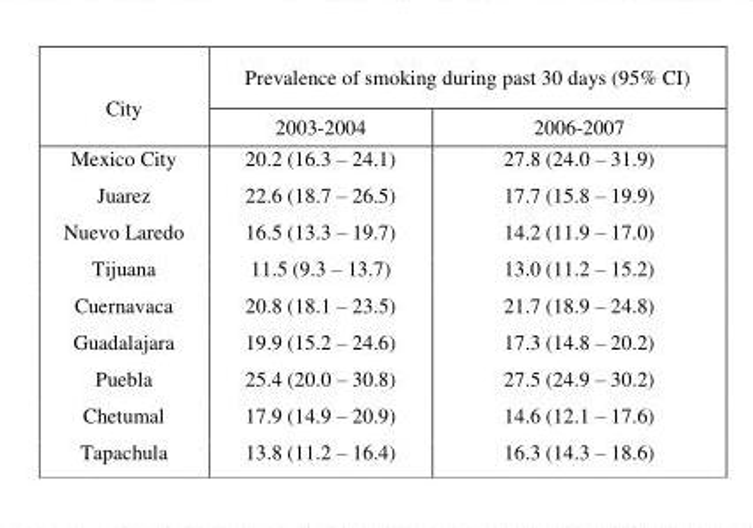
<table><thead><tr><td rowspan="2">City</td><td colspan="2">Prevalence of smoking during past 30 days (95% CI)</td></tr><tr><td>2003-2004</td><td>2006-2007</td></tr></thead><tbody><tr><td>Mexico City</td><td>20.2 (16.3 – 24.1)</td><td>27.8 (24.0 – 31.9)</td></tr><tr><td>Juarez</td><td>22.6 (18.7 – 26.5)</td><td>17.7 (15.8 – 19.9)</td></tr><tr><td>Nuevo Laredo</td><td>16.5 (13.3 – 19.7)</td><td>14.2 (11.9 – 17.0)</td></tr><tr><td>Tijuana</td><td>11.5 (9.3 – 13.7)</td><td>13.0 (11.2 – 15.2)</td></tr><tr><td>Cuernavaca</td><td>20.8 (18.1 – 23.5)</td><td>21.7 (18.9 – 24.8)</td></tr><tr><td>Guadalajara</td><td>19.9 (15.2 – 24.6)</td><td>17.3 (14.8 – 20.2)</td></tr><tr><td>Puebla</td><td>25.4 (20.0 – 30.8)</td><td>27.5 (24.9 – 30.2)</td></tr><tr><td>Chetumal</td><td>17.9 (14.9 – 20.9)</td><td>14.6 (12.1 – 17.6)</td></tr><tr><td>Tapachula</td><td>13.8 (11.2 – 16.4)</td><td>16.3 (14.3 – 18.6)</td></tr></tbody></table>